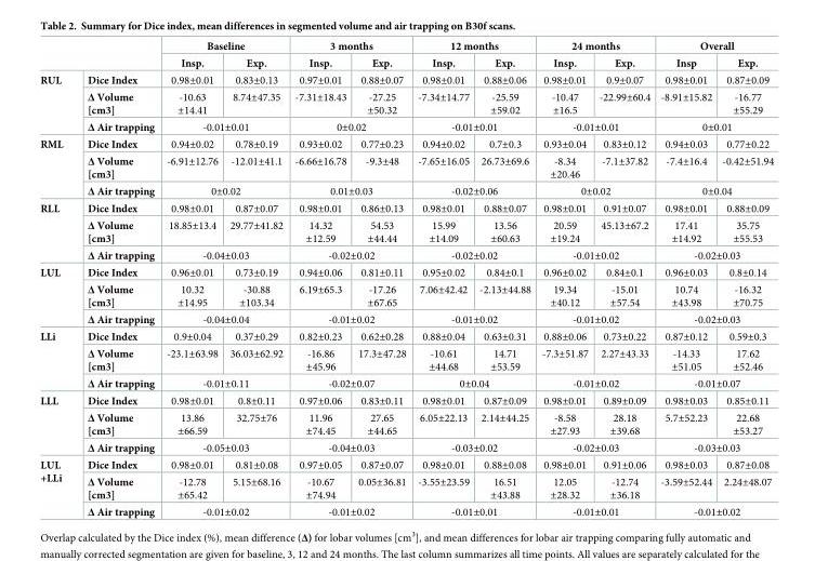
<table><thead><tr><td rowspan="2"></td><td rowspan="2"></td><td colspan="2">Baseline</td><td colspan="2">3 months</td><td colspan="2">12 months</td><td colspan="2">24 months</td><td colspan="2">Overall</td></tr><tr><td>Insp.</td><td>Exp.</td><td>Insp.</td><td>Exp.</td><td>Insp.</td><td>Exp.</td><td>Insp.</td><td>Exp.</td><td>Insp</td><td>Exp.</td></tr></thead><tbody><tr><td rowspan="3">RUL</td><td>Dice Index</td><td>0.98±0.01</td><td>0.83±0.13</td><td>0.97±0.01</td><td>0.88±0.07</td><td>0.98±0.01</td><td>0.88±0.06</td><td>0.98±0.01</td><td>0.9±0.07</td><td>0.98±0.01</td><td>0.87±0.09</td></tr><tr><td>Δ Volume [cm3]</td><td>-10.63 ±14.41</td><td>8.74±47.35</td><td>-7.31±18.43</td><td>-27.25 ±50.32</td><td>-7.34±14.77</td><td>-25.59 ±59.02</td><td>-10.47 ±16.5</td><td>-22.99±60.4</td><td>-8.91±15.82</td><td>-16.77 ±55.29</td></tr><tr><td>Δ Air trapping</td><td colspan="2">-0.01±0.01</td><td colspan="2">0±0.02</td><td colspan="2">-0.01±0.01</td><td colspan="2">-0.01±0.01</td><td colspan="2">0±0.01</td></tr><tr><td rowspan="3">RML</td><td>Dice Index</td><td>0.94±0.02</td><td>0.78±0.19</td><td>0.93±0.02</td><td>0.77±0.23</td><td>0.94±0.02</td><td>0.7±0.3</td><td>0.93±0.04</td><td>0.83±0.12</td><td>0.94±0.03</td><td>0.77±0.22</td></tr><tr><td>Δ Volume [cm3]</td><td>-6.91±12.76</td><td>-12.01±41.1</td><td>-6.66±16.78</td><td>-9.3±48</td><td>-7.65±16.05</td><td>26.73±69.6</td><td>-8.34 ±20.46</td><td>-7.1±37.82</td><td>-7.4±16.4</td><td>-0.42±51.94</td></tr><tr><td>Δ Air trapping</td><td colspan="2">0±0.02</td><td colspan="2">0.01±0.03</td><td colspan="2">-0.02±0.06</td><td colspan="2">0±0.02</td><td colspan="2">0±0.04</td></tr><tr><td rowspan="3">RLL</td><td>Dice Index</td><td>0.98±0.01</td><td>0.87±0.07</td><td>0.98±0.01</td><td>0.86±0.13</td><td>0.98±0.01</td><td>0.88±0.07</td><td>0.98±0.01</td><td>0.91±0.07</td><td>0.98±0.01</td><td>0.88±0.09</td></tr><tr><td>Δ Volume [cm3]</td><td>18.85±13.4</td><td>29.77±41.82</td><td>14.32 ±12.59</td><td>54.53 ±44.44</td><td>15.99 ±14.09</td><td>13.56 ±60.63</td><td>20.59 ±19.24</td><td>45.13±67.2</td><td>17.41 ±14.92</td><td>35.75 ±55.53</td></tr><tr><td>Δ Air trapping</td><td colspan="2">-0.04±0.03</td><td colspan="2">-0.02±0.02</td><td colspan="2">-0.02±0.02</td><td colspan="2">-0.01±0.02</td><td colspan="2">-0.02±0.03</td></tr><tr><td rowspan="3">LUL</td><td>Dice Index</td><td>0.96±0.01</td><td>0.73±0.19</td><td>0.94±0.06</td><td>0.81±0.11</td><td>0.95±0.02</td><td>0.84±0.1</td><td>0.96±0.02</td><td>0.84±0.1</td><td>0.96±0.03</td><td>0.8±0.14</td></tr><tr><td>Δ Volume [cm3]</td><td>10.32 ±14.95</td><td>-30.88 ±103.34</td><td>6.19±65.3</td><td>-17.26 ±67.65</td><td>7.06±42.42</td><td>-2.13±44.88</td><td>19.34 ±40.12</td><td>-15.01 ±57.54</td><td>10.74 ±43.98</td><td>-16.32 ±70.75</td></tr><tr><td>Δ Air trapping</td><td colspan="2">-0.04±0.04</td><td colspan="2">-0.01±0.02</td><td colspan="2">-0.01±0.02</td><td colspan="2">-0.01±0.02</td><td colspan="2">-0.02±0.03</td></tr><tr><td rowspan="3">LLi</td><td>Dice Index</td><td>0.9±0.04</td><td>0.37±0.29</td><td>0.82±0.23</td><td>0.62±0.28</td><td>0.88±0.04</td><td>0.63±0.31</td><td>0.88±0.06</td><td>0.73±0.22</td><td>0.87±0.12</td><td>0.59±0.3</td></tr><tr><td>Δ Volume [cm3]</td><td>-23.1±63.98</td><td>36.03±62.92</td><td>-16.86 ±45.96</td><td>17.3±47.28</td><td>-10.61 ±44.68</td><td>14.71 ±53.59</td><td>-7.3±51.87</td><td>2.27±43.33</td><td>-14.33 ±51.05</td><td>17.62 ±52.46</td></tr><tr><td>Δ Air trapping</td><td colspan="2">-0.01±0.11</td><td colspan="2">-0.02±0.07</td><td colspan="2">0±0.04</td><td colspan="2">-0.01±0.02</td><td colspan="2">-0.01±0.07</td></tr><tr><td rowspan="3">LLL</td><td>Dice Index</td><td>0.98±0.01</td><td>0.8±0.11</td><td>0.97±0.06</td><td>0.83±0.11</td><td>0.98±0.01</td><td>0.87±0.09</td><td>0.98±0.01</td><td>0.89±0.09</td><td>0.98±0.03</td><td>0.85±0.11</td></tr><tr><td>Δ Volume [cm3]</td><td>13.86 ±66.59</td><td>32.75±76</td><td>11.96 ±74.45</td><td>27.65 ±44.65</td><td>6.05±22.13</td><td>2.14±44.25</td><td>-8.58 ±27.93</td><td>28.18 ±39.68</td><td>5.7±52.23</td><td>22.68 ±53.27</td></tr><tr><td>Δ Air trapping</td><td colspan="2">-0.05±0.03</td><td colspan="2">-0.04±0.03</td><td colspan="2">-0.03±0.02</td><td colspan="2">-0.02±0.03</td><td colspan="2">-0.03±0.03</td></tr><tr><td rowspan="3">LUL +LLi</td><td>Dice Index</td><td>0.98±0.01</td><td>0.81±0.08</td><td>0.97±0.05</td><td>0.87±0.07</td><td>0.98±0.01</td><td>0.88±0.08</td><td>0.98±0.01</td><td>0.91±0.06</td><td>0.98±0.03</td><td>0.87±0.08</td></tr><tr><td>Δ Volume [cm3]</td><td>-12.78 ±65.42</td><td>5.15±68.16</td><td>-10.67 ±74.94</td><td>0.05±36.81</td><td>-3.55±23.59</td><td>16.51 ±43.88</td><td>12.05 ±28.32</td><td>-12.74 ±36.18</td><td>-3.59±52.44</td><td>2.24±48.07</td></tr><tr><td>Δ Air trapping</td><td colspan="2">-0.01±0.02</td><td colspan="2">-0.01±0.02</td><td colspan="2">-0.01±0.01</td><td colspan="2">-0.01±0.01</td><td colspan="2">-0.01±0.02</td></tr></tbody></table>